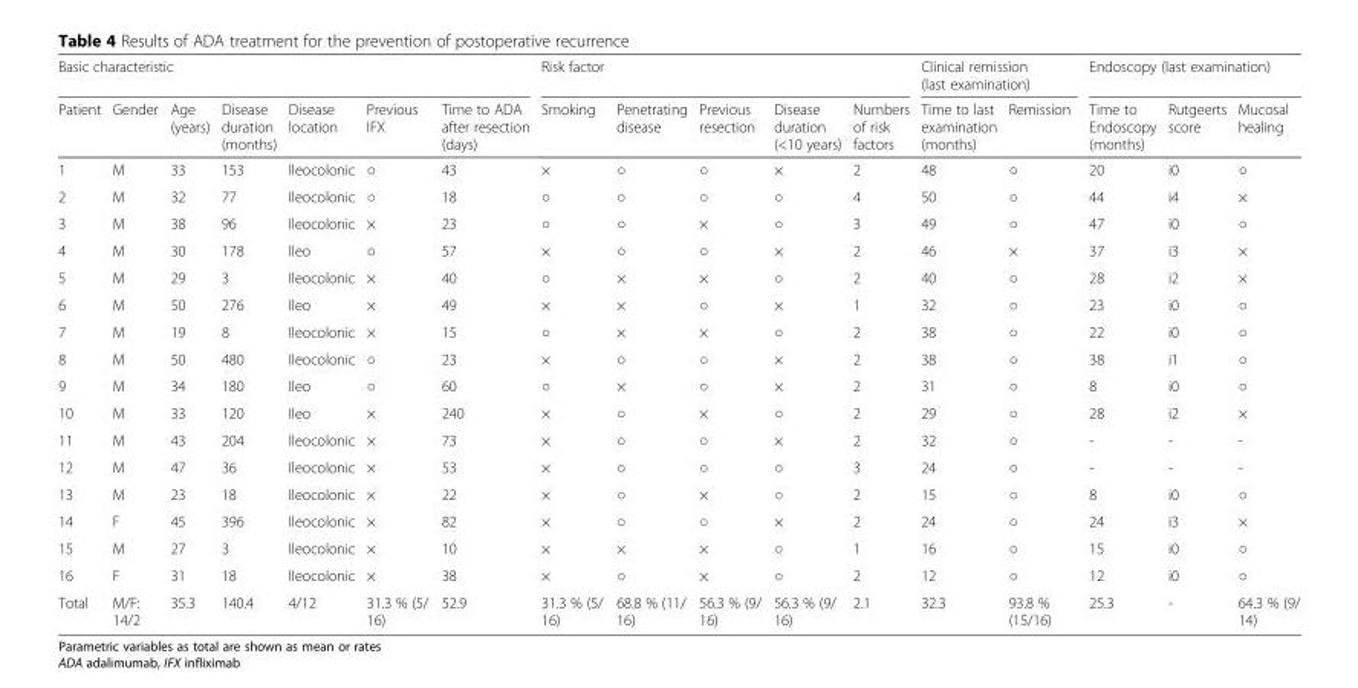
<table><thead><tr><td colspan="7">Basic characteristic</td><td colspan="5">Risk factor</td><td colspan="2">Clinical remission (last examination)</td><td colspan="3">Endoscopy (last examination)</td></tr><tr><td>Patient</td><td>Gender</td><td>Age (years)</td><td>Disease duration (months)</td><td>Disease location</td><td>Previous IFX</td><td>Time to ADA after resection (days)</td><td>Smoking</td><td>Penetrating disease</td><td>Previous resection</td><td>Disease duration (&lt;10 years)</td><td>Numbers of risk factors</td><td>Time to last examination (months)</td><td>Remission</td><td>Time to Endoscopy (months)</td><td>Rutgeerts score</td><td>Mucosal healing</td></tr></thead><tbody><tr><td>1</td><td>M</td><td>33</td><td>153</td><td>Ileocolonic</td><td>○</td><td>43</td><td>×</td><td>○</td><td>○</td><td>×</td><td>2</td><td>48</td><td>○</td><td>20</td><td>i0</td><td>○</td></tr><tr><td>2</td><td>M</td><td>32</td><td>77</td><td>Ileocolonic</td><td>○</td><td>18</td><td>○</td><td>○</td><td>○</td><td>○</td><td>4</td><td>50</td><td>○</td><td>44</td><td>i4</td><td>×</td></tr><tr><td>3</td><td>M</td><td>38</td><td>96</td><td>Ileocolonic</td><td>×</td><td>23</td><td>○</td><td>○</td><td>×</td><td>○</td><td>3</td><td>49</td><td>○</td><td>47</td><td>i0</td><td>○</td></tr><tr><td>4</td><td>M</td><td>30</td><td>178</td><td>Ileo</td><td>○</td><td>57</td><td>×</td><td>○</td><td>○</td><td>×</td><td>2</td><td>46</td><td>×</td><td>37</td><td>i3</td><td>×</td></tr><tr><td>5</td><td>M</td><td>29</td><td>3</td><td>Ileocolonic</td><td>×</td><td>40</td><td>○</td><td>×</td><td>×</td><td>○</td><td>2</td><td>40</td><td>○</td><td>28</td><td>i2</td><td>×</td></tr><tr><td>6</td><td>M</td><td>50</td><td>276</td><td>Ileo</td><td>×</td><td>49</td><td>×</td><td>×</td><td>○</td><td>×</td><td>1</td><td>32</td><td>○</td><td>23</td><td>i0</td><td>○</td></tr><tr><td>7</td><td>M</td><td>19</td><td>8</td><td>Ileocolonic</td><td>×</td><td>15</td><td>○</td><td>×</td><td>×</td><td>○</td><td>2</td><td>38</td><td>○</td><td>22</td><td>i0</td><td>○</td></tr><tr><td>8</td><td>M</td><td>50</td><td>480</td><td>Ileocolonic</td><td>○</td><td>23</td><td>×</td><td>○</td><td>○</td><td>×</td><td>2</td><td>38</td><td>○</td><td>38</td><td>i1</td><td>○</td></tr><tr><td>9</td><td>M</td><td>34</td><td>180</td><td>Ileo</td><td>○</td><td>60</td><td>○</td><td>×</td><td>○</td><td>×</td><td>2</td><td>31</td><td>○</td><td>8</td><td>i0</td><td>○</td></tr><tr><td>10</td><td>M</td><td>33</td><td>120</td><td>Ileo</td><td>×</td><td>240</td><td>×</td><td>○</td><td>×</td><td>○</td><td>2</td><td>29</td><td>○</td><td>28</td><td>i2</td><td>×</td></tr><tr><td>11</td><td>M</td><td>43</td><td>204</td><td>Ileocolonic</td><td>×</td><td>73</td><td>×</td><td>○</td><td>○</td><td>×</td><td>2</td><td>32</td><td>○</td><td>-</td><td>-</td><td>-</td></tr><tr><td>12</td><td>M</td><td>47</td><td>36</td><td>Ileocolonic</td><td>×</td><td>53</td><td>×</td><td>○</td><td>○</td><td>○</td><td>3</td><td>24</td><td>○</td><td>-</td><td>-</td><td>-</td></tr><tr><td>13</td><td>M</td><td>23</td><td>18</td><td>Ileocolonic</td><td>×</td><td>22</td><td>×</td><td>○</td><td>×</td><td>○</td><td>2</td><td>15</td><td>○</td><td>8</td><td>i0</td><td>○</td></tr><tr><td>14</td><td>F</td><td>45</td><td>396</td><td>Ileocolonic</td><td>×</td><td>82</td><td>×</td><td>○</td><td>○</td><td>×</td><td>2</td><td>24</td><td>○</td><td>24</td><td>i3</td><td>×</td></tr><tr><td>15</td><td>M</td><td>27</td><td>3</td><td>Ileocolonic</td><td>×</td><td>10</td><td>×</td><td>×</td><td>×</td><td>○</td><td>1</td><td>16</td><td>○</td><td>15</td><td>i0</td><td>○</td></tr><tr><td>16</td><td>F</td><td>31</td><td>18</td><td>Ileocolonic</td><td>×</td><td>38</td><td>×</td><td>○</td><td>×</td><td>○</td><td>2</td><td>12</td><td>○</td><td>12</td><td>i0</td><td>○</td></tr><tr><td>Total</td><td>M/F: 14/2</td><td>35.3</td><td>140.4</td><td>4/12</td><td>31.3 % (5/ 16)</td><td>52.9</td><td>31.3 % (5/ 16)</td><td>68.8 % (11/ 16)</td><td>56.3 % (9/ 16)</td><td>56.3 % (9/ 16)</td><td>2.1</td><td>32.3</td><td>93.8 % (15/16)</td><td>25.3</td><td>-</td><td>64.3 % (9/ 14)</td></tr></tbody></table>